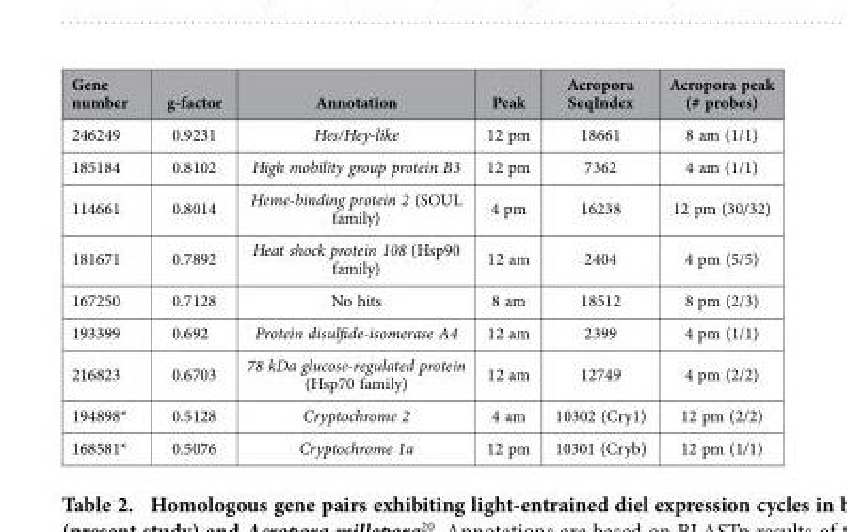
<table><thead><tr><td>Gene number</td><td>g-factor</td><td>Annotation</td><td>Peak</td><td>Acropora SeqIndex</td><td>Acropora peak (# probes)</td></tr></thead><tbody><tr><td>246249</td><td>0.9231</td><td>Hes/Hey-like</td><td>12 pm</td><td>18661</td><td>8 am (1/1)</td></tr><tr><td>185184</td><td>0.8102</td><td>High mobility group protein B3</td><td>12 pm</td><td>7362</td><td>4 am (1/1)</td></tr><tr><td>114661</td><td>0.8014</td><td>Heme-binding protein 2 (SOUL family)</td><td>4 pm</td><td>16238</td><td>12 pm (30/32)</td></tr><tr><td>181671</td><td>0.7892</td><td>Heat shock protein 108 (Hsp90 family)</td><td>12 am</td><td>2404</td><td>4 pm (5/5)</td></tr><tr><td>167250</td><td>0.7128</td><td>No hits</td><td>8 am</td><td>18512</td><td>8 pm (2/3)</td></tr><tr><td>193399</td><td>0.692</td><td>Protein disulfide-isomerase A4</td><td>12 am</td><td>2399</td><td>4 pm (1/1)</td></tr><tr><td>216823</td><td>0.6703</td><td>78 kDa glucose-regulated protein (Hsp70 family)</td><td>12 am</td><td>12749</td><td>4 pm (2/2)</td></tr><tr><td>194898*</td><td>0.5128</td><td>Cryptochrome 2</td><td>4 am</td><td>10302 (Cry1)</td><td>12 pm (2/2)</td></tr><tr><td>168581*</td><td>0.5076</td><td>Cryptochrome 1a</td><td>12 pm</td><td>10301 (Cryb)</td><td>12 pm (1/1)</td></tr></tbody></table>